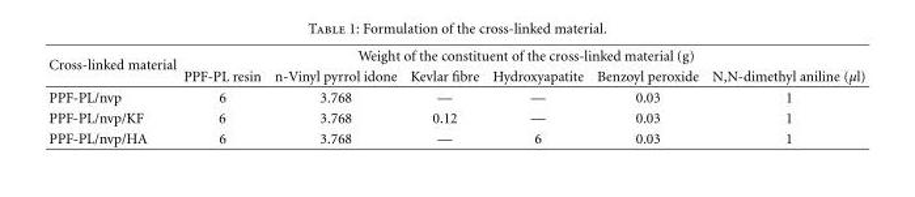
<table><thead><tr><td rowspan="2">Cross-linked material</td><td colspan="6">Weight of the constituent of the cross-linked material (g)</td></tr><tr><td>PPF-PL resin</td><td>n-Vinyl pyrrol idone</td><td>Kevlar fibre</td><td>Hydroxyapatite</td><td>Benzoyl peroxide</td><td>N,N-dimethyl aniline (μl)</td></tr></thead><tbody><tr><td>PPF-PL/nvp</td><td>6</td><td>3.768</td><td>—</td><td>—</td><td>0.03</td><td>1</td></tr><tr><td>PPF-PL/nvp/KF</td><td>6</td><td>3.768</td><td>0.12</td><td>—</td><td>0.03</td><td>1</td></tr><tr><td>PPF-PL/nvp/HA</td><td>6</td><td>3.768</td><td>—</td><td>6</td><td>0.03</td><td>1</td></tr></tbody></table>